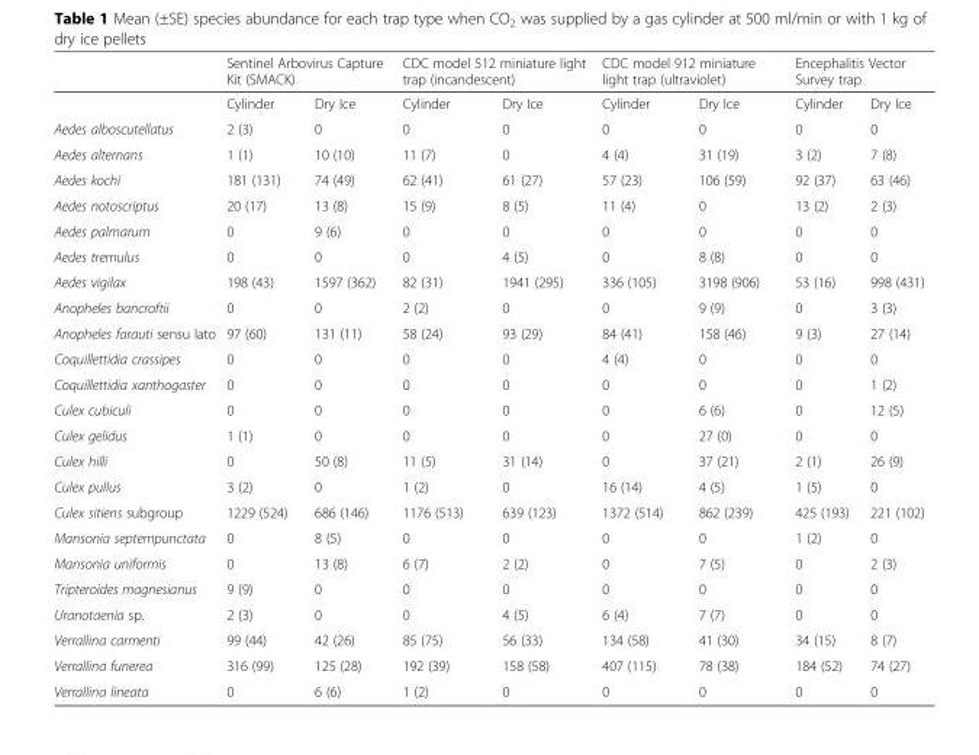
<table><thead><tr><td rowspan="2"></td><td colspan="2">Sentinel Arbovirus Capture Kit (SMACK)</td><td colspan="2">CDC model 512 miniature light trap (incandescent)</td><td colspan="2">CDC model 912 miniature light trap (ultraviolet)</td><td colspan="2">Encephalitis Vector Survey trap</td></tr><tr><td>Cylinder</td><td>Dry Ice</td><td>Cylinder</td><td>Dry Ice</td><td>Cylinder</td><td>Dry Ice</td><td>Cylinder</td><td>Dry Ice</td></tr></thead><tbody><tr><td>Aedes alboscutellatus</td><td>2 (3)</td><td>0</td><td>0</td><td>0</td><td>0</td><td>0</td><td>0</td><td>0</td></tr><tr><td>Aedes alternans</td><td>1 (1)</td><td>10 (10)</td><td>11 (7)</td><td>0</td><td>4 (4)</td><td>31 (19)</td><td>3 (2)</td><td>7 (8)</td></tr><tr><td>Aedes kochi</td><td>181 (131)</td><td>74 (49)</td><td>62 (41)</td><td>61 (27)</td><td>57 (23)</td><td>106 (59)</td><td>92 (37)</td><td>63 (46)</td></tr><tr><td>Aedes notoscriptus</td><td>20 (17)</td><td>13 (8)</td><td>15 (9)</td><td>8 (5)</td><td>11 (4)</td><td>0</td><td>13 (2)</td><td>2 (3)</td></tr><tr><td>Aedes palmarum</td><td>0</td><td>9 (6)</td><td>0</td><td>0</td><td>0</td><td>0</td><td>0</td><td>0</td></tr><tr><td>Aedes tremulus</td><td>0</td><td>0</td><td>0</td><td>4 (5)</td><td>0</td><td>8 (8)</td><td>0</td><td>0</td></tr><tr><td>Aedes vigilax</td><td>198 (43)</td><td>1597 (362)</td><td>82 (31)</td><td>1941 (295)</td><td>336 (105)</td><td>3198 (906)</td><td>53 (16)</td><td>998 (431)</td></tr><tr><td>Anopheles bancroftii</td><td>0</td><td>0</td><td>2 (2)</td><td>0</td><td>0</td><td>9 (9)</td><td>0</td><td>3 (3)</td></tr><tr><td>Anopheles farauti sensu lato</td><td>97 (60)</td><td>131 (11)</td><td>58 (24)</td><td>93 (29)</td><td>84 (41)</td><td>158 (46)</td><td>9 (3)</td><td>27 (14)</td></tr><tr><td>Coquillettidia crassipes</td><td>0</td><td>0</td><td>0</td><td>0</td><td>4 (4)</td><td>0</td><td>0</td><td>0</td></tr><tr><td>Coquillettidia xanthogaster</td><td>0</td><td>0</td><td>0</td><td>0</td><td>0</td><td>0</td><td>0</td><td>1 (2)</td></tr><tr><td>Culex cubiculi</td><td>0</td><td>0</td><td>0</td><td>0</td><td>0</td><td>6 (6)</td><td>0</td><td>12 (5)</td></tr><tr><td>Culex gelidus</td><td>1 (1)</td><td>0</td><td>0</td><td>0</td><td>0</td><td>27 (0)</td><td>0</td><td>0</td></tr><tr><td>Culex hilli</td><td>0</td><td>50 (8)</td><td>11 (5)</td><td>31 (14)</td><td>0</td><td>37 (21)</td><td>2 (1)</td><td>26 (9)</td></tr><tr><td>Culex pullus</td><td>3 (2)</td><td>0</td><td>1 (2)</td><td>0</td><td>16 (14)</td><td>4 (5)</td><td>1 (5)</td><td>0</td></tr><tr><td>Culex sitiens subgroup</td><td>1229 (524)</td><td>686 (146)</td><td>1176 (513)</td><td>639 (123)</td><td>1372 (514)</td><td>862 (239)</td><td>425 (193)</td><td>221 (102)</td></tr><tr><td>Mansonia septempunctata</td><td>0</td><td>8 (5)</td><td>0</td><td>0</td><td>0</td><td>0</td><td>1 (2)</td><td>0</td></tr><tr><td>Mansonia uniformis</td><td>0</td><td>13 (8)</td><td>6 (7)</td><td>2 (2)</td><td>0</td><td>7 (5)</td><td>0</td><td>2 (3)</td></tr><tr><td>Tripteroides magnesianus</td><td>9 (9)</td><td>0</td><td>0</td><td>0</td><td>0</td><td>0</td><td>0</td><td>0</td></tr><tr><td>Uranotaenia sp.</td><td>2 (3)</td><td>0</td><td>0</td><td>4 (5)</td><td>6 (4)</td><td>7 (7)</td><td>0</td><td>0</td></tr><tr><td>Verrallina carmenti</td><td>99 (44)</td><td>42 (26)</td><td>85 (75)</td><td>56 (33)</td><td>134 (58)</td><td>41 (30)</td><td>34 (15)</td><td>8 (7)</td></tr><tr><td>Verrallina funerea</td><td>316 (99)</td><td>125 (28)</td><td>192 (39)</td><td>158 (58)</td><td>407 (115)</td><td>78 (38)</td><td>184 (52)</td><td>74 (27)</td></tr><tr><td>Verrallina lineata</td><td>0</td><td>6 (6)</td><td>1 (2)</td><td>0</td><td>0</td><td>0</td><td>0</td><td>0</td></tr></tbody></table>